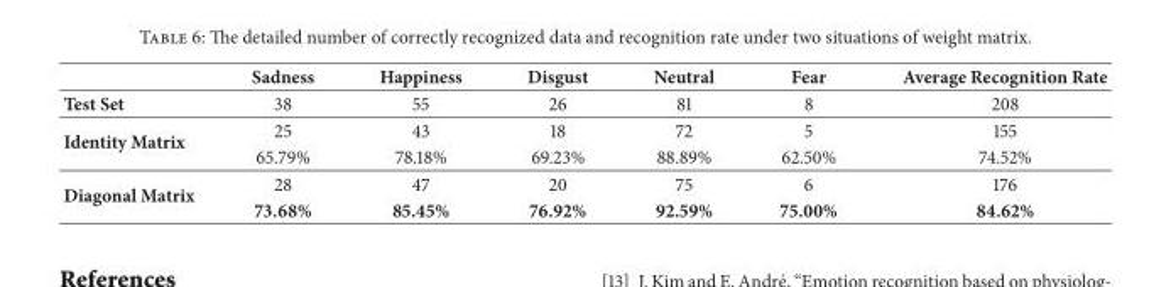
<table><thead><tr><td></td><td>Sadness</td><td>Happiness</td><td>Disgust</td><td>Neutral</td><td>Fear</td><td>Average Recognition Rate</td></tr></thead><tbody><tr><td>Test Set</td><td>38</td><td>55</td><td>26</td><td>81</td><td>8</td><td>208</td></tr><tr><td rowspan="2">Identity Matrix</td><td>25</td><td>43</td><td>18</td><td>72</td><td>5</td><td>155</td></tr><tr><td>65.79%</td><td>78.18%</td><td>69.23%</td><td>88.89%</td><td>62.50%</td><td>74.52%</td></tr><tr><td rowspan="2">Diagonal Matrix</td><td>28</td><td>47</td><td>20</td><td>75</td><td>6</td><td>176</td></tr><tr><td>73.68%</td><td>85.45%</td><td>76.92%</td><td>92.59%</td><td>75.00%</td><td>84.62%</td></tr></tbody></table>